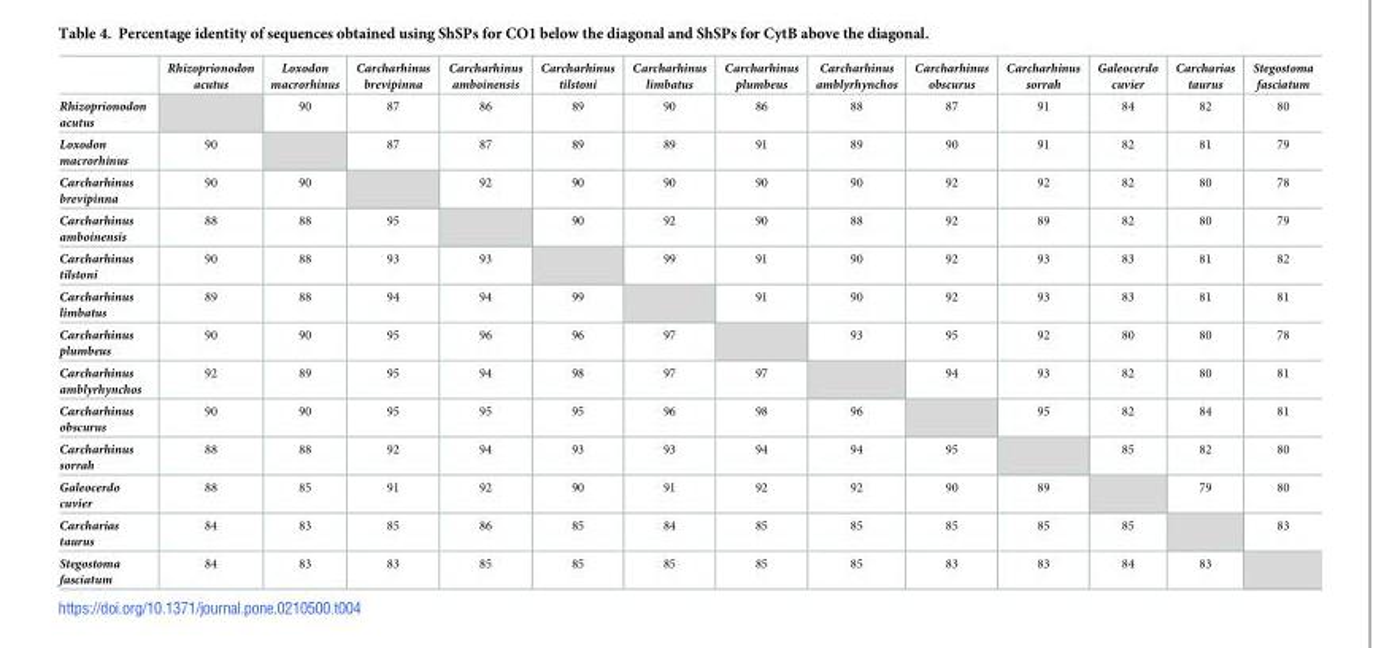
<table><thead><tr><td></td><td>Rhizoprionodon acutus</td><td>Loxodon macrorhinus</td><td>Carcharhinus brevipinna</td><td>Carcharhinus amboinensis</td><td>Carcharhinus tilstoni</td><td>Carcharhinus limbatus</td><td>Carcharhinus plumbeus</td><td>Carcharhinus amblyrhynchos</td><td>Carcharhinus obscurus</td><td>Carcharhinus sorrah</td><td>Galeocerdo cuvier</td><td>Carcharias taurus</td><td>Stegostoma fasciatum</td></tr></thead><tbody><tr><td>Rhizoprionodon acutus</td><td></td><td>90</td><td>87</td><td>86</td><td>89</td><td>90</td><td>86</td><td>88</td><td>87</td><td>91</td><td>84</td><td>82</td><td>80</td></tr><tr><td>Loxodon macrorhinus</td><td>90</td><td></td><td>87</td><td>87</td><td>89</td><td>89</td><td>91</td><td>89</td><td>90</td><td>91</td><td>82</td><td>81</td><td>79</td></tr><tr><td>Carcharhinus brevipinna</td><td>90</td><td>90</td><td></td><td>92</td><td>90</td><td>90</td><td>90</td><td>90</td><td>92</td><td>92</td><td>82</td><td>80</td><td>78</td></tr><tr><td>Carcharhinus amboinensis</td><td>88</td><td>88</td><td>95</td><td></td><td>90</td><td>92</td><td>90</td><td>88</td><td>92</td><td>89</td><td>82</td><td>80</td><td>79</td></tr><tr><td>Carcharhinus tilstoni</td><td>90</td><td>88</td><td>93</td><td>93</td><td></td><td>99</td><td>91</td><td>90</td><td>92</td><td>93</td><td>83</td><td>81</td><td>82</td></tr><tr><td>Carcharhinus limbatus</td><td>89</td><td>88</td><td>94</td><td>94</td><td>99</td><td></td><td>91</td><td>90</td><td>92</td><td>93</td><td>83</td><td>81</td><td>81</td></tr><tr><td>Carcharhinus plumbeus</td><td>90</td><td>90</td><td>95</td><td>96</td><td>96</td><td>97</td><td></td><td>93</td><td>95</td><td>92</td><td>80</td><td>80</td><td>78</td></tr><tr><td>Carcharhinus amblyrhynchos</td><td>92</td><td>89</td><td>95</td><td>94</td><td>98</td><td>97</td><td>97</td><td></td><td>94</td><td>93</td><td>82</td><td>80</td><td>81</td></tr><tr><td>Carcharhinus obscurus</td><td>90</td><td>90</td><td>95</td><td>95</td><td>95</td><td>96</td><td>98</td><td>96</td><td></td><td>95</td><td>82</td><td>84</td><td>81</td></tr><tr><td>Carcharhinus sorrah</td><td>88</td><td>88</td><td>92</td><td>94</td><td>93</td><td>93</td><td>94</td><td>94</td><td>95</td><td></td><td>85</td><td>82</td><td>80</td></tr><tr><td>Galeocerdo cuvier</td><td>88</td><td>85</td><td>91</td><td>92</td><td>90</td><td>91</td><td>92</td><td>92</td><td>90</td><td>89</td><td></td><td>79</td><td>80</td></tr><tr><td>Carcharias taurus</td><td>84</td><td>83</td><td>85</td><td>86</td><td>85</td><td>84</td><td>85</td><td>85</td><td>85</td><td>85</td><td>85</td><td></td><td>83</td></tr><tr><td>Stegostoma fasciatum</td><td>84</td><td>83</td><td>83</td><td>85</td><td>85</td><td>85</td><td>85</td><td>85</td><td>83</td><td>83</td><td>84</td><td>83</td><td></td></tr></tbody></table>